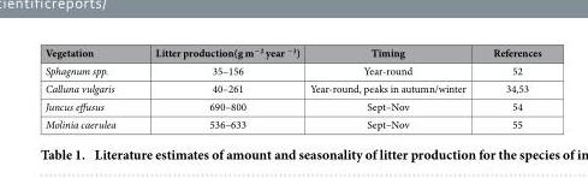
<table><thead><tr><td>Vegetation</td><td>Litter production(g m<sup>−2</sup> year <sup>−1</sup>)</td><td>Timing</td><td>References</td></tr></thead><tbody><tr><td>Sphagnum spp.</td><td>35–156</td><td>Year-round</td><td>52</td></tr><tr><td>Calluna vulgaris</td><td>40–261</td><td>Year-round, peaks in autumn/winter</td><td>34,53</td></tr><tr><td>Juncus effusus</td><td>690–800</td><td>Sept–Nov</td><td>54</td></tr><tr><td>Molinia caerulea</td><td>536–633</td><td>Sept–Nov</td><td>55</td></tr></tbody></table>